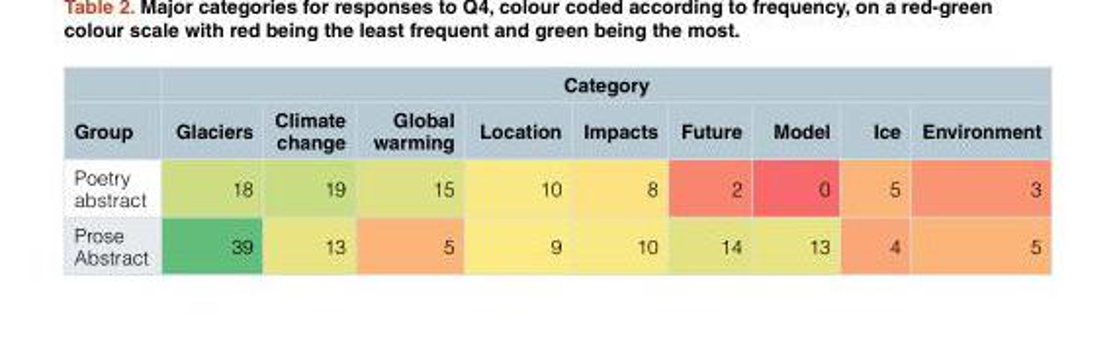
<table><thead><tr><td rowspan="2">Group</td><td colspan="9">Category</td></tr><tr><td>Glaciers</td><td>Climate change</td><td>Global warming</td><td>Location</td><td>Impacts</td><td>Future</td><td>Model</td><td>Ice</td><td>Environment</td></tr></thead><tbody><tr><td>Poetry abstract</td><td>18</td><td>19</td><td>15</td><td>10</td><td>8</td><td>2</td><td>0</td><td>5</td><td>3</td></tr><tr><td>Prose Abstract</td><td>39</td><td>13</td><td>5</td><td>9</td><td>10</td><td>14</td><td>13</td><td>4</td><td>5</td></tr></tbody></table>